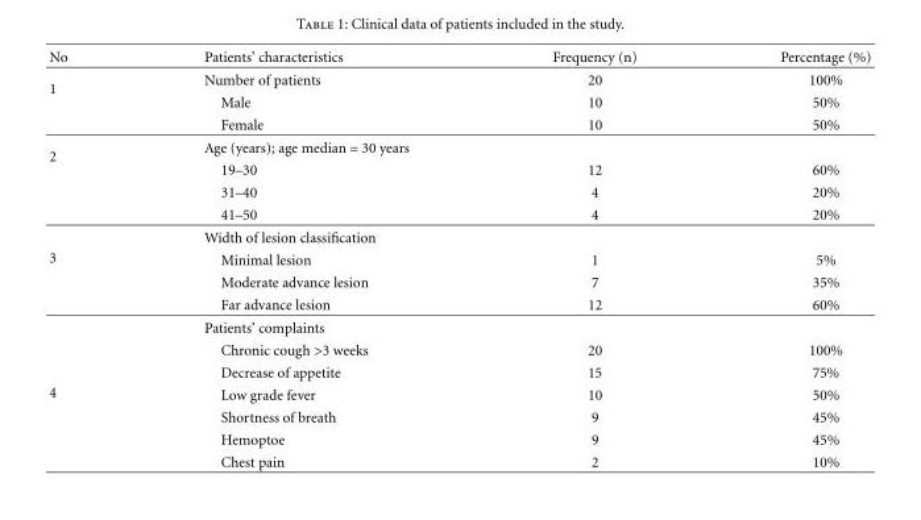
<table><thead><tr><td>No</td><td>Patients’ characteristics</td><td>Frequency (n)</td><td>Percentage (%)</td></tr></thead><tbody><tr><td rowspan="3">1</td><td>Number of patients</td><td>20</td><td>100%</td></tr><tr><td>Male</td><td>10</td><td>50%</td></tr><tr><td>Female</td><td>10</td><td>50%</td></tr><tr><td rowspan="4">2</td><td>Age (years); age median = 30 years</td><td></td><td></td></tr><tr><td>19–30</td><td>12</td><td>60%</td></tr><tr><td>31–40</td><td>4</td><td>20%</td></tr><tr><td>41–50</td><td>4</td><td>20%</td></tr><tr><td rowspan="4">3</td><td>Width of lesion classification</td><td></td><td></td></tr><tr><td>Minimal lesion</td><td>1</td><td>5%</td></tr><tr><td>Moderate advance lesion</td><td>7</td><td>35%</td></tr><tr><td>Far advance lesion</td><td>12</td><td>60%</td></tr><tr><td rowspan="7">4</td><td>Patients’ complaints</td><td></td><td></td></tr><tr><td>Chronic cough &gt;3 weeks</td><td>20</td><td>100%</td></tr><tr><td>Decrease of appetite</td><td>15</td><td>75%</td></tr><tr><td>Low grade fever</td><td>10</td><td>50%</td></tr><tr><td>Shortness of breath</td><td>9</td><td>45%</td></tr><tr><td>Hemoptoe</td><td>9</td><td>45%</td></tr><tr><td>Chest pain</td><td>2</td><td>10%</td></tr></tbody></table>